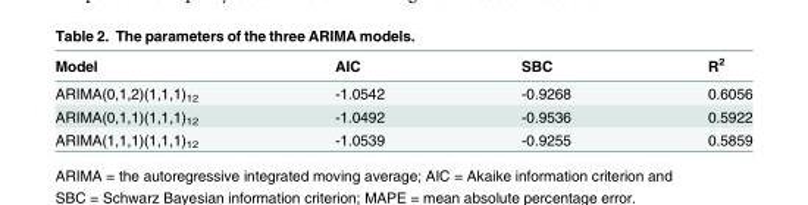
<table><thead><tr><td>Model</td><td>AIC</td><td>SBC</td><td>R<sup>2</sup></td></tr></thead><tbody><tr><td>ARIMA(0,1,2)(1,1,1)<sub>12</sub></td><td>-1.0542</td><td>-0.9268</td><td>0.6056</td></tr><tr><td>ARIMA(0,1,1)(1,1,1)<sub>12</sub></td><td>-1.0492</td><td>-0.9536</td><td>0.5922</td></tr><tr><td>ARIMA(1,1,1)(1,1,1)<sub>12</sub></td><td>-1.0539</td><td>-0.9255</td><td>0.5859</td></tr></tbody></table>